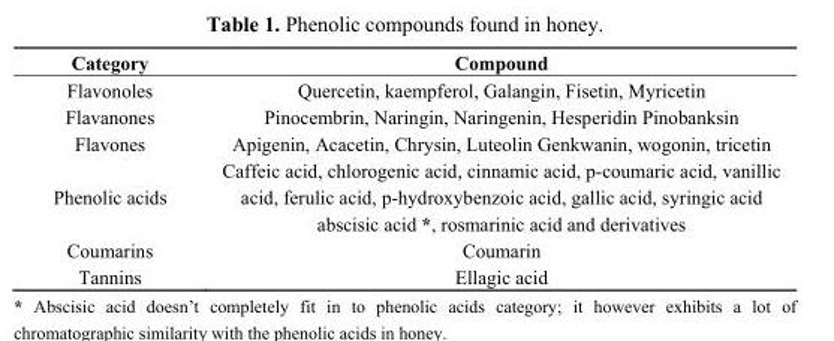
<table><thead><tr><td>Category</td><td>Compound</td></tr></thead><tbody><tr><td>Flavonoles</td><td>Quercetin, kaempferol, Galangin, Fisetin, Myricetin</td></tr><tr><td>Flavanones</td><td>Pinocembrin, Naringin, Naringenin, Hesperidin Pinobanksin</td></tr><tr><td>Flavones</td><td>Apigenin, Acacetin, Chrysin, Luteolin Genkwanin, wogonin, tricetin</td></tr><tr><td>Phenolic acids</td><td>Caffeic acid, chlorogenic acid, cinnamic acid, p-coumaric acid, vanillic acid, ferulic acid, p-hydroxybenzoic acid, gallic acid, syringic acid abscisic acid *, rosmarinic acid and derivatives</td></tr><tr><td>Coumarins</td><td>Coumarin</td></tr><tr><td>Tannins</td><td>Ellagic acid</td></tr></tbody></table>